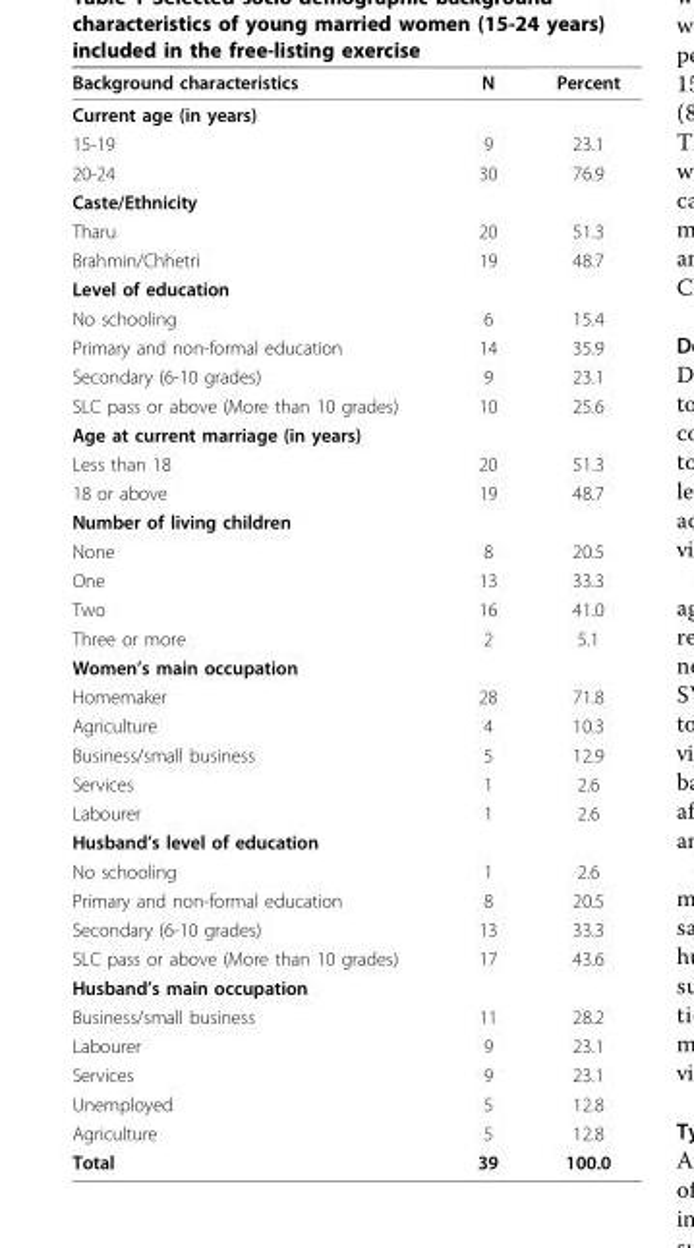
<table><thead><tr><td>Background characteristics</td><td>N</td><td>Percent</td></tr></thead><tbody><tr><td colspan="3">Current age (in years)</td></tr><tr><td>15-19</td><td>9</td><td>23.1</td></tr><tr><td>20-24</td><td>30</td><td>76.9</td></tr><tr><td colspan="3">Caste/Ethnicity</td></tr><tr><td>Tharu</td><td>20</td><td>51.3</td></tr><tr><td>Brahmin/Chhetri</td><td>19</td><td>48.7</td></tr><tr><td colspan="3">Level of education</td></tr><tr><td>No schooling</td><td>6</td><td>15.4</td></tr><tr><td>Primary and non-formal education</td><td>14</td><td>35.9</td></tr><tr><td>Secondary (6-10 grades)</td><td>9</td><td>23.1</td></tr><tr><td>SLC pass or above (More than 10 grades)</td><td>10</td><td>25.6</td></tr><tr><td colspan="3">Age at current marriage (in years)</td></tr><tr><td>Less than 18</td><td>20</td><td>51.3</td></tr><tr><td>18 or above</td><td>19</td><td>48.7</td></tr><tr><td colspan="3">Number of living children</td></tr><tr><td>None</td><td>8</td><td>20.5</td></tr><tr><td>One</td><td>13</td><td>33.3</td></tr><tr><td>Two</td><td>16</td><td>41.0</td></tr><tr><td>Three or more</td><td>2</td><td>5.1</td></tr><tr><td colspan="3">Women’s main occupation</td></tr><tr><td>Homemaker</td><td>28</td><td>71.8</td></tr><tr><td>Agriculture</td><td>4</td><td>10.3</td></tr><tr><td>Business/small business</td><td>5</td><td>12.9</td></tr><tr><td>Services</td><td>1</td><td>2.6</td></tr><tr><td>Labourer</td><td>1</td><td>2.6</td></tr><tr><td colspan="3">Husband’s level of education</td></tr><tr><td>No schooling</td><td>1</td><td>2.6</td></tr><tr><td>Primary and non-formal education</td><td>8</td><td>20.5</td></tr><tr><td>Secondary (6-10 grades)</td><td>13</td><td>33.3</td></tr><tr><td>SLC pass or above (More than 10 grades)</td><td>17</td><td>43.6</td></tr><tr><td colspan="3">Husband’s main occupation</td></tr><tr><td>Business/small business</td><td>11</td><td>28.2</td></tr><tr><td>Labourer</td><td>9</td><td>23.1</td></tr><tr><td>Services</td><td>9</td><td>23.1</td></tr><tr><td>Unemployed</td><td>5</td><td>12.8</td></tr><tr><td>Agriculture</td><td>5</td><td>12.8</td></tr><tr><td>Total</td><td>39</td><td>100.0</td></tr></tbody></table>